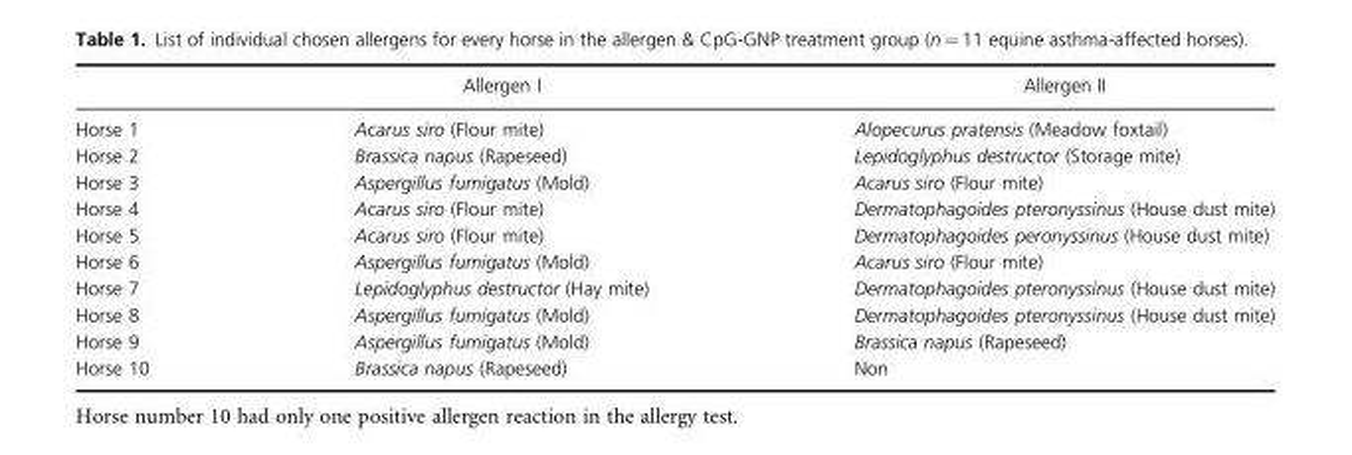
<table><thead><tr><td></td><td>Allergen I</td><td>Allergen II</td></tr></thead><tbody><tr><td>Horse 1</td><td>Acarus siro (Flour mite)</td><td>Alopecurus pratensis (Meadow foxtail)</td></tr><tr><td>Horse 2</td><td>Brassica napus (Rapeseed)</td><td>Lepidoglyphus destructor (Storage mite)</td></tr><tr><td>Horse 3</td><td>Aspergillus fumigatus (Mold)</td><td>Acarus siro (Flour mite)</td></tr><tr><td>Horse 4</td><td>Acarus siro (Flour mite)</td><td>Dermatophagoides pteronyssinus (House dust mite)</td></tr><tr><td>Horse 5</td><td>Acarus siro (Flour mite)</td><td>Dermatophagoides peronyssinus (House dust mite)</td></tr><tr><td>Horse 6</td><td>Aspergillus fumigatus (Mold)</td><td>Acarus siro (Flour mite)</td></tr><tr><td>Horse 7</td><td>Lepidoglyphus destructor (Hay mite)</td><td>Dermatophagoides pteronyssinus (House dust mite)</td></tr><tr><td>Horse 8</td><td>Aspergillus fumigatus (Mold)</td><td>Dermatophagoides pteronyssinus (House dust mite)</td></tr><tr><td>Horse 9</td><td>Aspergillus fumigatus (Mold)</td><td>Brassica napus (Rapeseed)</td></tr><tr><td>Horse 10</td><td>Brassica napus (Rapeseed)</td><td>Non</td></tr></tbody></table>